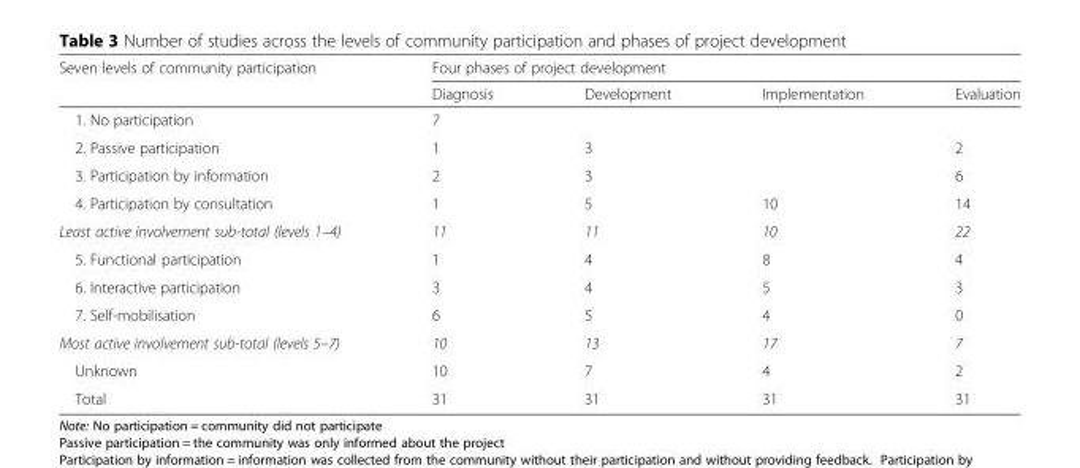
<table><thead><tr><td rowspan="2">Seven levels of community participation</td><td colspan="4">Four phases of project development</td></tr><tr><td>Diagnosis</td><td>Development</td><td>Implementation</td><td>Evaluation</td></tr></thead><tbody><tr><td>1. No participation</td><td>7</td><td></td><td></td><td></td></tr><tr><td>2. Passive participation</td><td>1</td><td>3</td><td></td><td>2</td></tr><tr><td>3. Participation by information</td><td>2</td><td>3</td><td></td><td>6</td></tr><tr><td>4. Participation by consultation</td><td>1</td><td>5</td><td>10</td><td>14</td></tr><tr><td>Least active involvement sub-total (levels 1–4)</td><td>11</td><td>11</td><td>10</td><td>22</td></tr><tr><td>5. Functional participation</td><td>1</td><td>4</td><td>8</td><td>4</td></tr><tr><td>6. Interactive participation</td><td>3</td><td>4</td><td>5</td><td>3</td></tr><tr><td>7. Self-mobilisation</td><td>6</td><td>5</td><td>4</td><td>0</td></tr><tr><td>Most active involvement sub-total (levels 5–7)</td><td>10</td><td>13</td><td>17</td><td>7</td></tr><tr><td>Unknown</td><td>10</td><td>7</td><td>4</td><td>2</td></tr><tr><td>Total</td><td>31</td><td>31</td><td>31</td><td>31</td></tr></tbody></table>